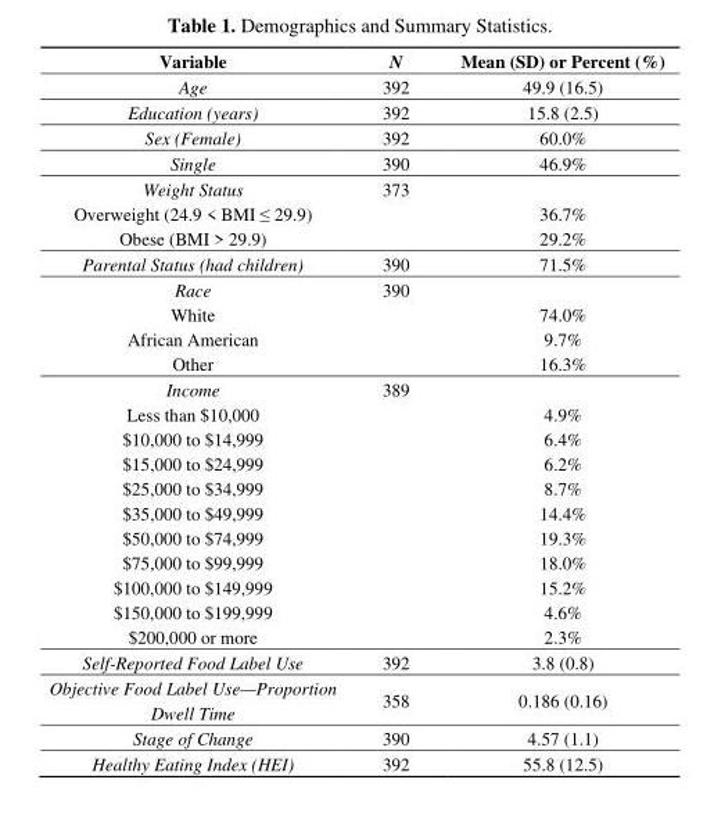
<table><thead><tr><td>Variable</td><td>N</td><td>Mean (SD) or Percent (%)</td></tr></thead><tbody><tr><td>Age</td><td>392</td><td>49.9 (16.5)</td></tr><tr><td>Education (years)</td><td>392</td><td>15.8 (2.5)</td></tr><tr><td>Sex (Female)</td><td>392</td><td>60.0%</td></tr><tr><td>Single</td><td>390</td><td>46.9%</td></tr><tr><td>Weight Status</td><td>373</td><td></td></tr><tr><td>Overweight (24.9 &lt; BMI ≤ 29.9)</td><td></td><td>36.7%</td></tr><tr><td>Obese (BMI &gt; 29.9)</td><td></td><td>29.2%</td></tr><tr><td>Parental Status (had children)</td><td>390</td><td>71.5%</td></tr><tr><td>Race</td><td>390</td><td></td></tr><tr><td>White</td><td></td><td>74.0%</td></tr><tr><td>African American</td><td></td><td>9.7%</td></tr><tr><td>Other</td><td></td><td>16.3%</td></tr><tr><td>Income</td><td>389</td><td></td></tr><tr><td>Less than $10,000</td><td></td><td>4.9%</td></tr><tr><td>$10,000 to $14,999</td><td></td><td>6.4%</td></tr><tr><td>$15,000 to $24,999</td><td></td><td>6.2%</td></tr><tr><td>$25,000 to $34,999</td><td></td><td>8.7%</td></tr><tr><td>$35,000 to $49,999</td><td></td><td>14.4%</td></tr><tr><td>$50,000 to $74,999</td><td></td><td>19.3%</td></tr><tr><td>$75,000 to $99,999</td><td></td><td>18.0%</td></tr><tr><td>$100,000 to $149,999</td><td></td><td>15.2%</td></tr><tr><td>$150,000 to $199,999</td><td></td><td>4.6%</td></tr><tr><td>$200,000 or more</td><td></td><td>2.3%</td></tr><tr><td>Self-Reported Food Label Use</td><td>392</td><td>3.8 (0.8)</td></tr><tr><td>Objective Food Label Use—Proportion Dwell Time</td><td>358</td><td>0.186 (0.16)</td></tr><tr><td>Stage of Change</td><td>390</td><td>4.57 (1.1)</td></tr><tr><td>Healthy Eating Index (HEI)</td><td>392</td><td>55.8 (12.5)</td></tr></tbody></table>